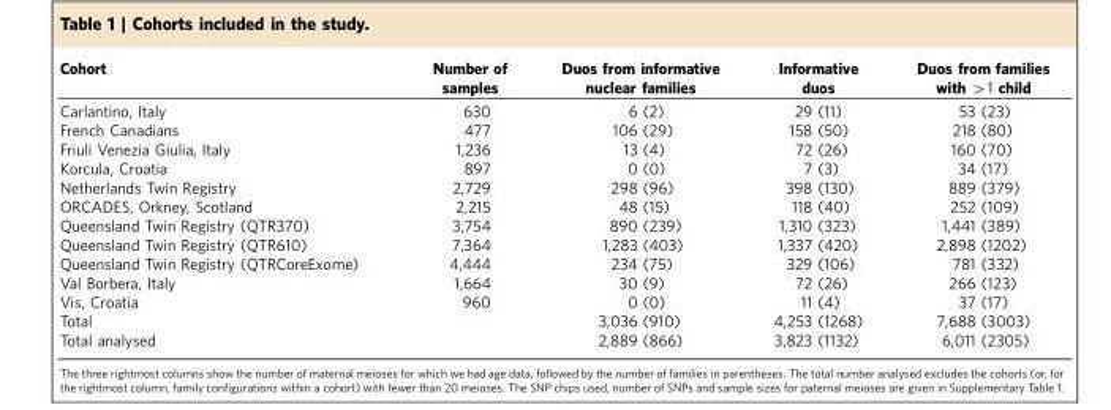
<table><thead><tr><td>Cohort</td><td>Number of samples</td><td>Duos from informative nuclear families</td><td>Informative duos</td><td>Duos from families with &gt;1 child</td></tr></thead><tbody><tr><td>Carlantino, Italy</td><td>630</td><td>6 (2)</td><td>29 (11)</td><td>53 (23)</td></tr><tr><td>French Canadians</td><td>477</td><td>106 (29)</td><td>158 (50)</td><td>218 (80)</td></tr><tr><td>Friuli Venezia Giulia, Italy</td><td>1,236</td><td>13 (4)</td><td>72 (26)</td><td>160 (70)</td></tr><tr><td>Korcula, Croatia</td><td>897</td><td>0 (0)</td><td>7 (3)</td><td>34 (17)</td></tr><tr><td>Netherlands Twin Registry</td><td>2,729</td><td>298 (96)</td><td>398 (130)</td><td>889 (379)</td></tr><tr><td>ORCADES, Orkney, Scotland</td><td>2,215</td><td>48 (15)</td><td>118 (40)</td><td>252 (109)</td></tr><tr><td>Queensland Twin Registry (QTR370)</td><td>3,754</td><td>890 (239)</td><td>1,310 (323)</td><td>1,441 (389)</td></tr><tr><td>Queensland Twin Registry (QTR610)</td><td>7,364</td><td>1,283 (403)</td><td>1,337 (420)</td><td>2,898 (1202)</td></tr><tr><td>Queensland Twin Registry (QTRCoreExome)</td><td>4,444</td><td>234 (75)</td><td>329 (106)</td><td>781 (332)</td></tr><tr><td>Val Borbera, Italy</td><td>1,664</td><td>30 (9)</td><td>72 (26)</td><td>266 (123)</td></tr><tr><td>Vis, Croatia</td><td>960</td><td>0 (0)</td><td>11 (4)</td><td>37 (17)</td></tr><tr><td>Total</td><td></td><td>3,036 (910)</td><td>4,253 (1268)</td><td>7,688 (3003)</td></tr><tr><td>Total analysed</td><td></td><td>2,889 (866)</td><td>3,823 (1132)</td><td>6,011 (2305)</td></tr></tbody></table>